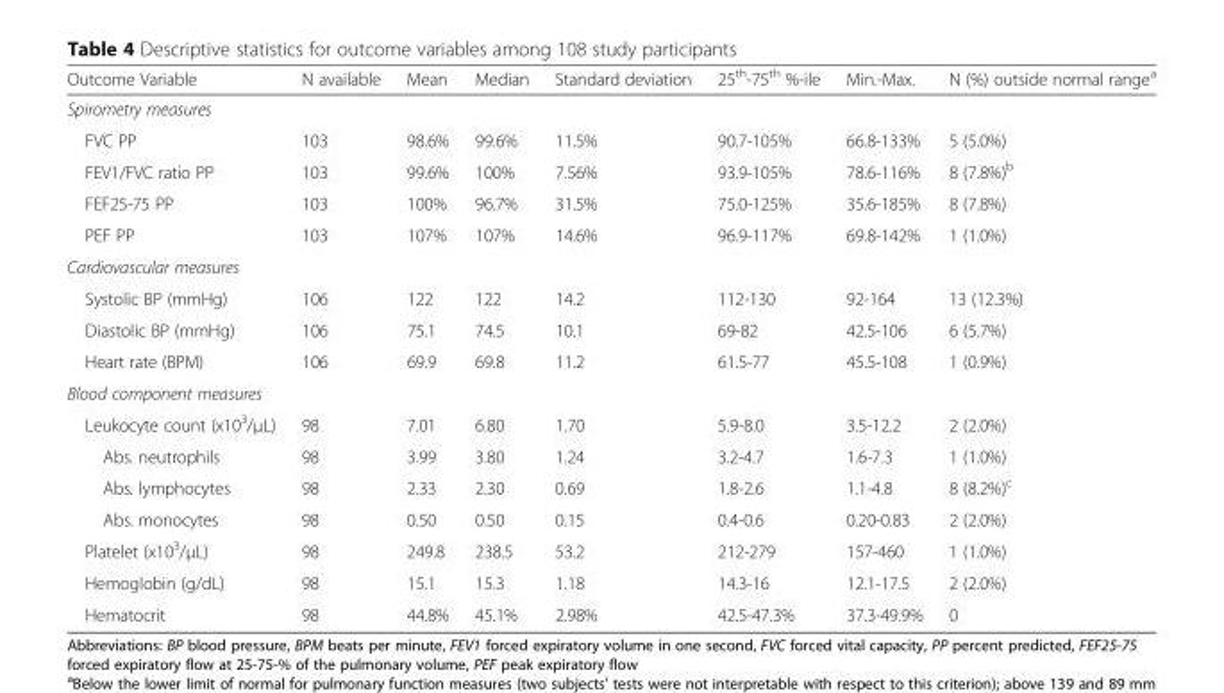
<table><thead><tr><td>Outcome Variable</td><td>N available</td><td>Mean</td><td>Median</td><td>Standard deviation</td><td>25<sup>th</sup>-75<sup>th</sup> %-ile</td><td>Min.-Max.</td><td>N (%) outside normal range<sup>a</sup></td></tr></thead><tbody><tr><td colspan="8">Spirometry measures</td></tr><tr><td>FVC PP</td><td>103</td><td>98.6%</td><td>99.6%</td><td>11.5%</td><td>90.7-105%</td><td>66.8-133%</td><td>5 (5.0%)</td></tr><tr><td>FEV1/FVC ratio PP</td><td>103</td><td>99.6%</td><td>100%</td><td>7.56%</td><td>93.9-105%</td><td>78.6-116%</td><td>8 (7.8%)<sup>b</sup></td></tr><tr><td>FEF25-75 PP</td><td>103</td><td>100%</td><td>96.7%</td><td>31.5%</td><td>75.0-125%</td><td>35.6-185%</td><td>8 (7.8%)</td></tr><tr><td>PEF PP</td><td>103</td><td>107%</td><td>107%</td><td>14.6%</td><td>96.9-117%</td><td>69.8-142%</td><td>1 (1.0%)</td></tr><tr><td colspan="8">Cardiovascular measures</td></tr><tr><td>Systolic BP (mmHg)</td><td>106</td><td>122</td><td>122</td><td>14.2</td><td>112-130</td><td>92-164</td><td>13 (12.3%)</td></tr><tr><td>Diastolic BP (mmHg)</td><td>106</td><td>75.1</td><td>74.5</td><td>10.1</td><td>69-82</td><td>42.5-106</td><td>6 (5.7%)</td></tr><tr><td>Heart rate (BPM)</td><td>106</td><td>69.9</td><td>69.8</td><td>11.2</td><td>61.5-77</td><td>45.5-108</td><td>1 (0.9%)</td></tr><tr><td colspan="8">Blood component measures</td></tr><tr><td>Leukocyte count (x10<sup>3</sup>/μL)</td><td>98</td><td>7.01</td><td>6.80</td><td>1.70</td><td>5.9-8.0</td><td>3.5-12.2</td><td>2 (2.0%)</td></tr><tr><td>Abs. neutrophils</td><td>98</td><td>3.99</td><td>3.80</td><td>1.24</td><td>3.2-4.7</td><td>1.6-7.3</td><td>1 (1.0%)</td></tr><tr><td>Abs. lymphocytes</td><td>98</td><td>2.33</td><td>2.30</td><td>0.69</td><td>1.8-2.6</td><td>1.1-4.8</td><td>8 (8.2%)<sup>c</sup></td></tr><tr><td>Abs. monocytes</td><td>98</td><td>0.50</td><td>0.50</td><td>0.15</td><td>0.4-0.6</td><td>0.20-0.83</td><td>2 (2.0%)</td></tr><tr><td>Platelet (x10<sup>3</sup>/μL)</td><td>98</td><td>249.8</td><td>238.5</td><td>53.2</td><td>212-279</td><td>157-460</td><td>1 (1.0%)</td></tr><tr><td>Hemoglobin (g/dL)</td><td>98</td><td>15.1</td><td>15.3</td><td>1.18</td><td>14.3-16</td><td>12.1-17.5</td><td>2 (2.0%)</td></tr><tr><td>Hematocrit</td><td>98</td><td>44.8%</td><td>45.1%</td><td>2.98%</td><td>42.5-47.3%</td><td>37.3-49.9%</td><td>0</td></tr></tbody></table>